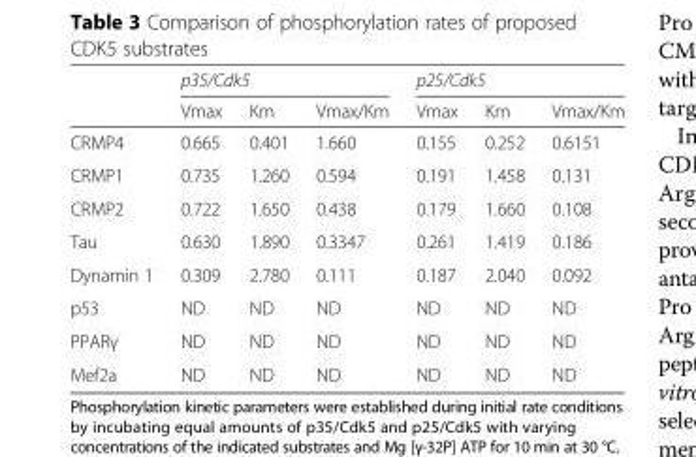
<table><thead><tr><td rowspan="2"></td><td colspan="3">p35/Cdk5</td><td colspan="3">p25/Cdk5</td></tr><tr><td>Vmax</td><td>Km</td><td>Vmax/Km</td><td>Vmax</td><td>Km</td><td>Vmax/Km</td></tr></thead><tbody><tr><td>CRMP4</td><td>0.665</td><td>0.401</td><td>1.660</td><td>0.155</td><td>0.252</td><td>0.6151</td></tr><tr><td>CRMP1</td><td>0.735</td><td>1.260</td><td>0.594</td><td>0.191</td><td>1.458</td><td>0.131</td></tr><tr><td>CRMP2</td><td>0.722</td><td>1.650</td><td>0.438</td><td>0.179</td><td>1.660</td><td>0.108</td></tr><tr><td>Tau</td><td>0.630</td><td>1.890</td><td>0.3347</td><td>0.261</td><td>1.419</td><td>0.186</td></tr><tr><td>Dynamin 1</td><td>0.309</td><td>2.780</td><td>0.111</td><td>0.187</td><td>2.040</td><td>0.092</td></tr><tr><td>p53</td><td>ND</td><td>ND</td><td>ND</td><td>ND</td><td>ND</td><td>ND</td></tr><tr><td>PPARγ</td><td>ND</td><td>ND</td><td>ND</td><td>ND</td><td>ND</td><td>ND</td></tr><tr><td>Mef2a</td><td>ND</td><td>ND</td><td>ND</td><td>ND</td><td>ND</td><td>ND</td></tr></tbody></table>